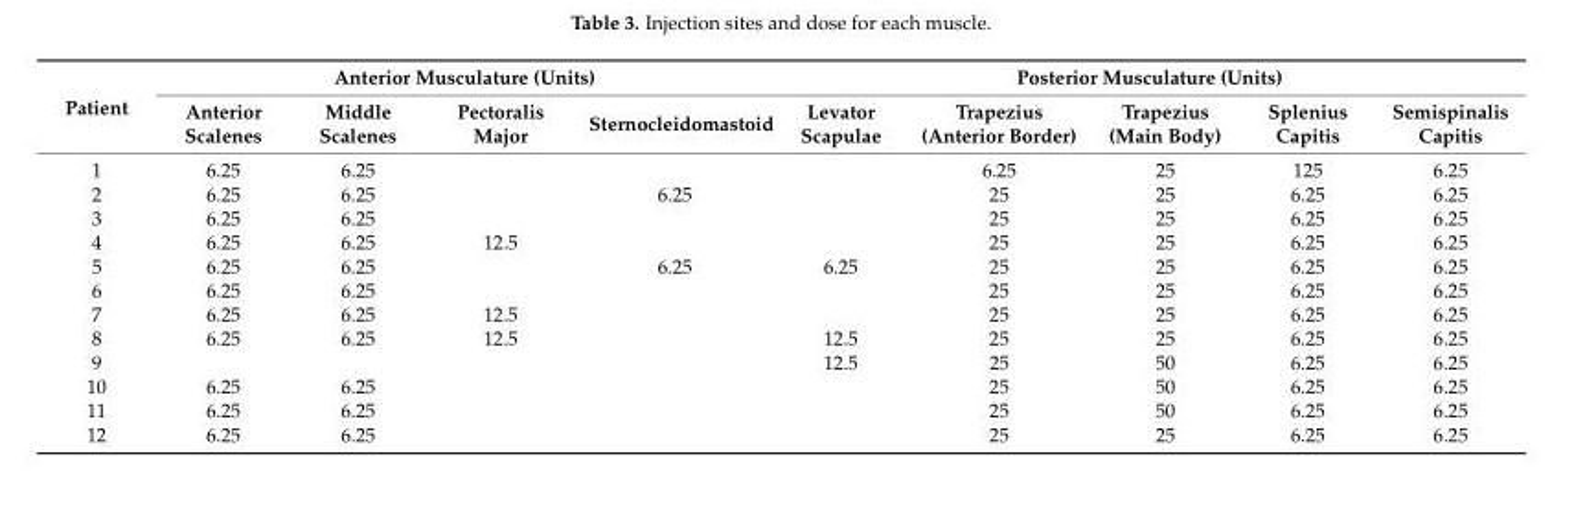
<table><thead><tr><td rowspan="2">Patient</td><td colspan="4">Anterior Musculature (Units)</td><td colspan="5">Posterior Musculature (Units)</td></tr><tr><td>Anterior Scalenes</td><td>Middle Scalenes</td><td>Pectoralis Major</td><td>Sternocleidomastoid</td><td>Levator Scapulae</td><td>Trapezius (Anterior Border)</td><td>Trapezius (Main Body)</td><td>Splenius Capitis</td><td>Semispinalis Capitis</td></tr></thead><tbody><tr><td>1</td><td>6.25</td><td>6.25</td><td></td><td></td><td></td><td>6.25</td><td>25</td><td>125</td><td>6.25</td></tr><tr><td>2</td><td>6.25</td><td>6.25</td><td></td><td>6.25</td><td></td><td>25</td><td>25</td><td>6.25</td><td>6.25</td></tr><tr><td>3</td><td>6.25</td><td>6.25</td><td></td><td></td><td></td><td>25</td><td>25</td><td>6.25</td><td>6.25</td></tr><tr><td>4</td><td>6.25</td><td>6.25</td><td>12.5</td><td></td><td></td><td>25</td><td>25</td><td>6.25</td><td>6.25</td></tr><tr><td>5</td><td>6.25</td><td>6.25</td><td></td><td>6.25</td><td>6.25</td><td>25</td><td>25</td><td>6.25</td><td>6.25</td></tr><tr><td>6</td><td>6.25</td><td>6.25</td><td></td><td></td><td></td><td>25</td><td>25</td><td>6.25</td><td>6.25</td></tr><tr><td>7</td><td>6.25</td><td>6.25</td><td>12.5</td><td></td><td></td><td>25</td><td>25</td><td>6.25</td><td>6.25</td></tr><tr><td>8</td><td>6.25</td><td>6.25</td><td>12.5</td><td></td><td>12.5</td><td>25</td><td>25</td><td>6.25</td><td>6.25</td></tr><tr><td>9</td><td></td><td></td><td></td><td></td><td>12.5</td><td>25</td><td>50</td><td>6.25</td><td>6.25</td></tr><tr><td>10</td><td>6.25</td><td>6.25</td><td></td><td></td><td></td><td>25</td><td>50</td><td>6.25</td><td>6.25</td></tr><tr><td>11</td><td>6.25</td><td>6.25</td><td></td><td></td><td></td><td>25</td><td>50</td><td>6.25</td><td>6.25</td></tr><tr><td>12</td><td>6.25</td><td>6.25</td><td></td><td></td><td></td><td>25</td><td>25</td><td>6.25</td><td>6.25</td></tr></tbody></table>